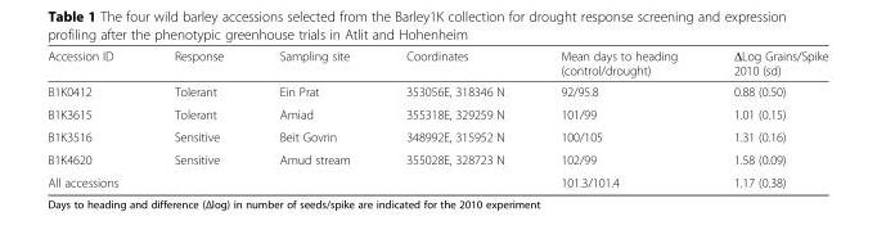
<table><thead><tr><td>Accession ID</td><td>Response</td><td>Sampling site</td><td>Coordinates</td><td>Mean days to heading (control/drought)</td><td>ΔLog Grains/Spike 2010 (sd)</td></tr></thead><tbody><tr><td>B1K0412</td><td>Tolerant</td><td>Ein Prat</td><td>353056E, 318346 N</td><td>92/95.8</td><td>0.88 (0.50)</td></tr><tr><td>B1K3615</td><td>Tolerant</td><td>Amiad</td><td>355318E, 329259 N</td><td>101/99</td><td>1.01 (0.15)</td></tr><tr><td>B1K3516</td><td>Sensitive</td><td>Beit Govrin</td><td>348992E, 315952 N</td><td>100/105</td><td>1.31 (0.16)</td></tr><tr><td>B1K4620</td><td>Sensitive</td><td>Amud stream</td><td>355028E, 328723 N</td><td>102/99</td><td>1.58 (0.09)</td></tr><tr><td>All accessions</td><td></td><td></td><td></td><td>101.3/101.4</td><td>1.17 (0.38)</td></tr></tbody></table>